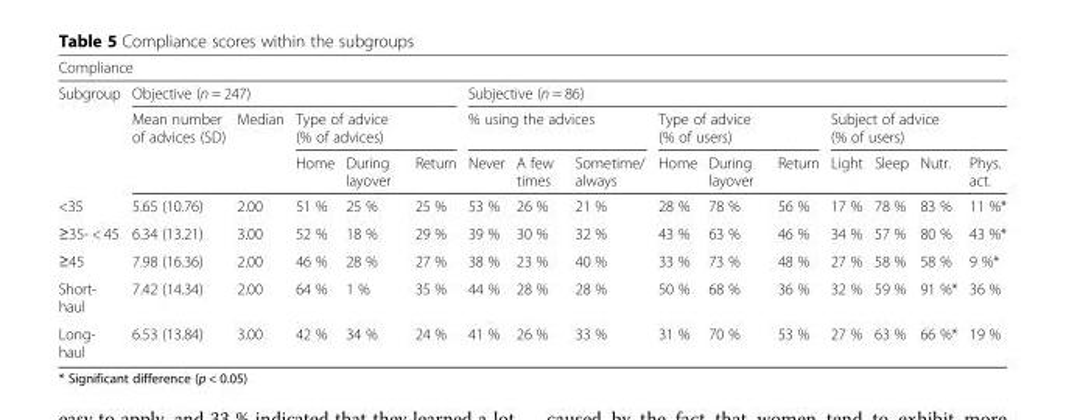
<table><thead><tr><td colspan="16">Compliance</td></tr><tr><td rowspan="3">Subgroup</td><td colspan="5">Objective (n = 247)</td><td colspan="10">Subjective (n = 86)</td></tr><tr><td rowspan="2">Mean number of advices (SD)</td><td rowspan="2">Median</td><td colspan="3">Type of advice (% of advices)</td><td colspan="3">% using the advices</td><td colspan="3">Type of advice (% of users)</td><td colspan="4">Subject of advice (% of users)</td></tr><tr><td>Home</td><td>During layover</td><td>Return</td><td>Never</td><td>A few times</td><td>Sometime/ always</td><td>Home</td><td>During layover</td><td>Return</td><td>Light</td><td>Sleep</td><td>Nutr.</td><td>Phys. act.</td></tr></thead><tbody><tr><td>&lt;35</td><td>5.65 (10.76)</td><td>2.00</td><td>51 %</td><td>25 %</td><td>25 %</td><td>53 %</td><td>26 %</td><td>21 %</td><td>28 %</td><td>78 %</td><td>56 %</td><td>17 %</td><td>78 %</td><td>83 %</td><td>11 %*</td></tr><tr><td>≥35- &lt; 45</td><td>6.34 (13.21)</td><td>3.00</td><td>52 %</td><td>18 %</td><td>29 %</td><td>39 %</td><td>30 %</td><td>32 %</td><td>43 %</td><td>63 %</td><td>46 %</td><td>34 %</td><td>57 %</td><td>80 %</td><td>43 %*</td></tr><tr><td>≥45</td><td>7.98 (16.36)</td><td>2.00</td><td>46 %</td><td>28 %</td><td>27 %</td><td>38 %</td><td>23 %</td><td>40 %</td><td>33 %</td><td>73 %</td><td>48 %</td><td>27 %</td><td>58 %</td><td>58 %</td><td>9 %*</td></tr><tr><td>Short- haul</td><td>7.42 (14.34)</td><td>2.00</td><td>64 %</td><td>1 %</td><td>35 %</td><td>44 %</td><td>28 %</td><td>28 %</td><td>50 %</td><td>68 %</td><td>36 %</td><td>32 %</td><td>59 %</td><td>91 %*</td><td>36 %</td></tr><tr><td>Long- haul</td><td>6.53 (13.84)</td><td>3.00</td><td>42 %</td><td>34 %</td><td>24 %</td><td>41 %</td><td>26 %</td><td>33 %</td><td>31 %</td><td>70 %</td><td>53 %</td><td>27 %</td><td>63 %</td><td>66 %*</td><td>19 %</td></tr></tbody></table>